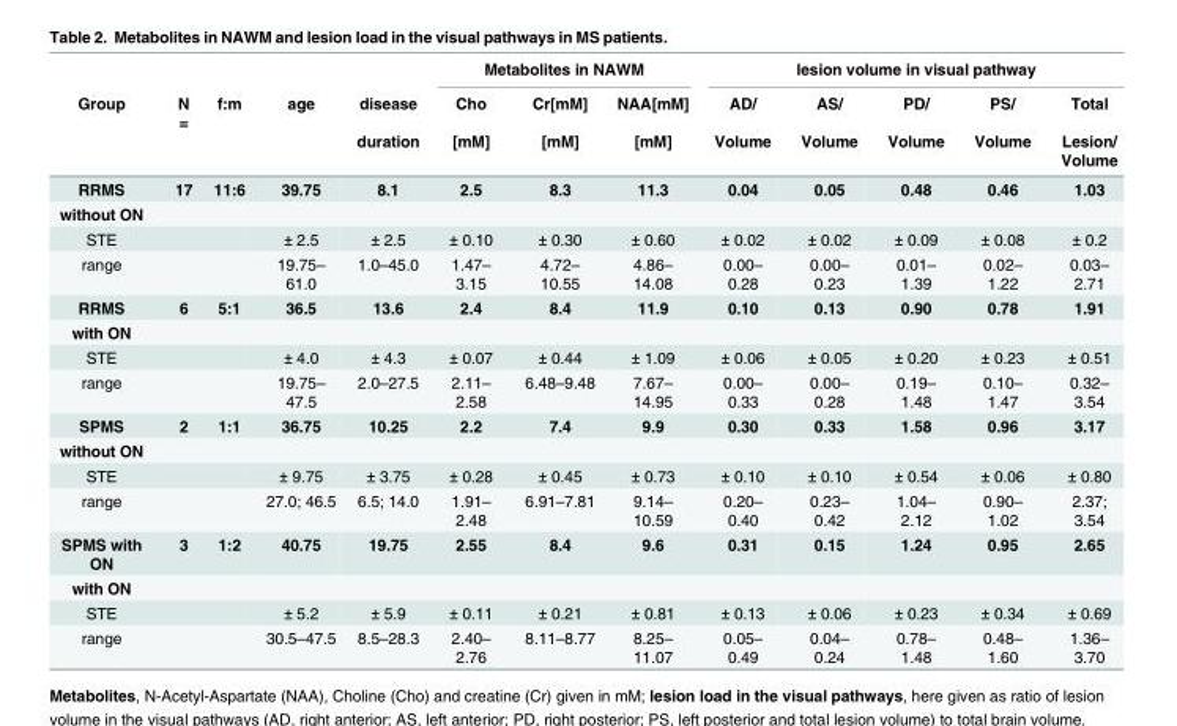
<table><thead><tr><td rowspan="4">Group</td><td rowspan="4">N =</td><td rowspan="4">f:m</td><td rowspan="4">age</td><td rowspan="4">disease duration</td><td colspan="3">Metabolites in NAWM</td><td colspan="5">lesion volume in visual pathway</td></tr><tr><td rowspan="3">Cho [mM]</td><td rowspan="3">Cr[mM] [mM]</td><td rowspan="3">NAA[mM] [mM]</td><td rowspan="3">AD/ Volume</td><td rowspan="3">AS/ Volume</td><td rowspan="3">PD/ Volume</td><td rowspan="3">PS/ Volume</td><td rowspan="3">Total Lesion/ Volume</td></tr><tr></tr><tr></tr></thead><tbody><tr><td>RRMS</td><td>17</td><td>11:6</td><td>39.75</td><td>8.1</td><td>2.5</td><td>8.3</td><td>11.3</td><td>0.04</td><td>0.05</td><td>0.48</td><td>0.46</td><td>1.03</td></tr><tr><td colspan="13">without ON</td></tr><tr><td>STE</td><td></td><td></td><td>± 2.5</td><td>± 2.5</td><td>± 0.10</td><td>± 0.30</td><td>± 0.60</td><td>± 0.02</td><td>± 0.02</td><td>± 0.09</td><td>± 0.08</td><td>± 0.2</td></tr><tr><td>range</td><td></td><td></td><td>19.75– 61.0</td><td>1.0–45.0</td><td>1.47– 3.15</td><td>4.72– 10.55</td><td>4.86– 14.08</td><td>0.00– 0.28</td><td>0.00– 0.23</td><td>0.01– 1.39</td><td>0.02– 1.22</td><td>0.03– 2.71</td></tr><tr><td>RRMS</td><td>6</td><td>5:1</td><td>36.5</td><td>13.6</td><td>2.4</td><td>8.4</td><td>11.9</td><td>0.10</td><td>0.13</td><td>0.90</td><td>0.78</td><td>1.91</td></tr><tr><td colspan="13">with ON</td></tr><tr><td>STE</td><td></td><td></td><td>± 4.0</td><td>± 4.3</td><td>± 0.07</td><td>± 0.44</td><td>± 1.09</td><td>± 0.06</td><td>± 0.05</td><td>± 0.20</td><td>± 0.23</td><td>± 0.51</td></tr><tr><td>range</td><td></td><td></td><td>19.75– 47.5</td><td>2.0–27.5</td><td>2.11– 2.58</td><td>6.48–9.48</td><td>7.67– 14.95</td><td>0.00– 0.33</td><td>0.00– 0.28</td><td>0.19– 1.48</td><td>0.10– 1.47</td><td>0.32– 3.54</td></tr><tr><td>SPMS</td><td>2</td><td>1:1</td><td>36.75</td><td>10.25</td><td>2.2</td><td>7.4</td><td>9.9</td><td>0.30</td><td>0.33</td><td>1.58</td><td>0.96</td><td>3.17</td></tr><tr><td colspan="13">without ON</td></tr><tr><td>STE</td><td></td><td></td><td>± 9.75</td><td>± 3.75</td><td>± 0.28</td><td>± 0.45</td><td>± 0.73</td><td>± 0.10</td><td>± 0.10</td><td>± 0.54</td><td>± 0.06</td><td>± 0.80</td></tr><tr><td>range</td><td></td><td></td><td>27.0; 46.5</td><td>6.5; 14.0</td><td>1.91– 2.48</td><td>6.91–7.81</td><td>9.14– 10.59</td><td>0.20– 0.40</td><td>0.23– 0.42</td><td>1.04– 2.12</td><td>0.90– 1.02</td><td>2.37; 3.54</td></tr><tr><td>SPMS with ON</td><td>3</td><td>1:2</td><td>40.75</td><td>19.75</td><td>2.55</td><td>8.4</td><td>9.6</td><td>0.31</td><td>0.15</td><td>1.24</td><td>0.95</td><td>2.65</td></tr><tr><td colspan="13">with ON</td></tr><tr><td>STE</td><td></td><td></td><td>± 5.2</td><td>± 5.9</td><td>± 0.11</td><td>± 0.21</td><td>± 0.81</td><td>± 0.13</td><td>± 0.06</td><td>± 0.23</td><td>± 0.34</td><td>± 0.69</td></tr><tr><td>range</td><td></td><td></td><td>30.5–47.5</td><td>8.5–28.3</td><td>2.40– 2.76</td><td>8.11–8.77</td><td>8.25– 11.07</td><td>0.05– 0.49</td><td>0.04– 0.24</td><td>0.78– 1.48</td><td>0.48– 1.60</td><td>1.36– 3.70</td></tr></tbody></table>